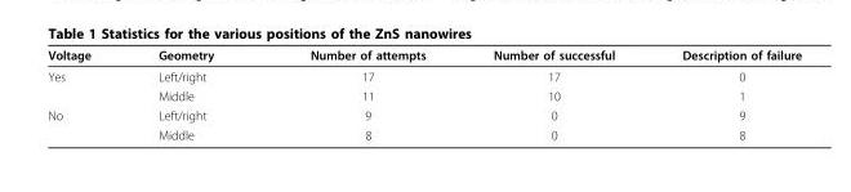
<table><thead><tr><td>Voltage</td><td>Geometry</td><td>Number of attempts</td><td>Number of successful</td><td>Description of failure</td></tr></thead><tbody><tr><td rowspan="2">Yes</td><td>Left/right</td><td>17</td><td>17</td><td>0</td></tr><tr><td>Middle</td><td>11</td><td>10</td><td>1</td></tr><tr><td rowspan="2">No</td><td>Left/right</td><td>9</td><td>0</td><td>9</td></tr><tr><td>Middle</td><td>8</td><td>0</td><td>8</td></tr></tbody></table>